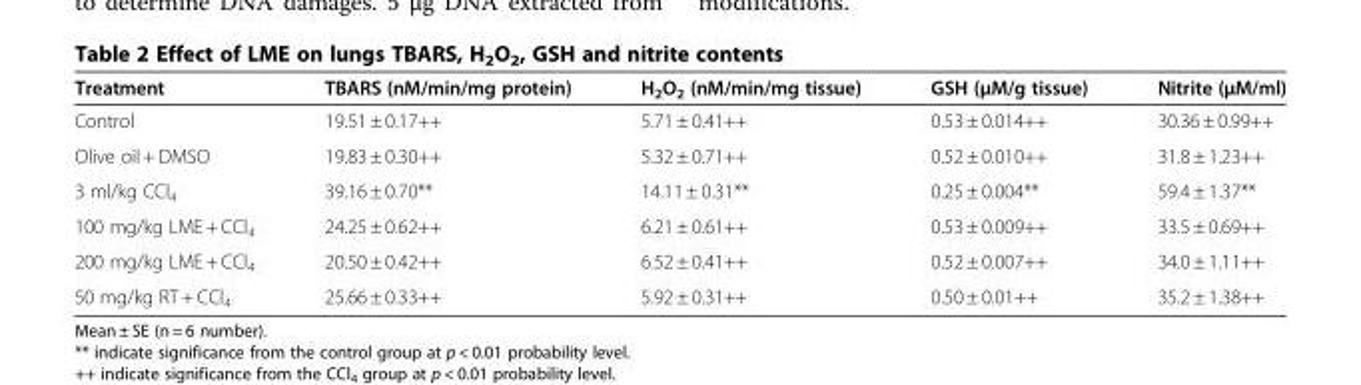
<table><thead><tr><td>Treatment</td><td>TBARS (nM/min/mg protein)</td><td>H<sub>2</sub>O<sub>2</sub> (nM/min/mg tissue)</td><td>GSH (μM/g tissue)</td><td>Nitrite (μM/ml)</td></tr></thead><tbody><tr><td>Control</td><td>19.51 ± 0.17++</td><td>5.71 ± 0.41++</td><td>0.53 ± 0.014++</td><td>30.36 ± 0.99++</td></tr><tr><td>Olive oil + DMSO</td><td>19.83 ± 0.30++</td><td>5.32 ± 0.71++</td><td>0.52 ± 0.010++</td><td>31.8 ± 1.23++</td></tr><tr><td>3 ml/kg CCl<sub>4</sub></td><td>39.16 ± 0.70**</td><td>14.11 ± 0.31**</td><td>0.25 ± 0.004**</td><td>59.4 ± 1.37**</td></tr><tr><td>100 mg/kg LME + CCl<sub>4</sub></td><td>24.25 ± 0.62++</td><td>6.21 ± 0.61++</td><td>0.53 ± 0.009++</td><td>33.5 ± 0.69++</td></tr><tr><td>200 mg/kg LME + CCl<sub>4</sub></td><td>20.50 ± 0.42++</td><td>6.52 ± 0.41++</td><td>0.52 ± 0.007++</td><td>34.0 ± 1.11++</td></tr><tr><td>50 mg/kg RT + CCl<sub>4</sub></td><td>25.66 ± 0.33++</td><td>5.92 ± 0.31++</td><td>0.50 ± 0.01++</td><td>35.2 ± 1.38++</td></tr></tbody></table>